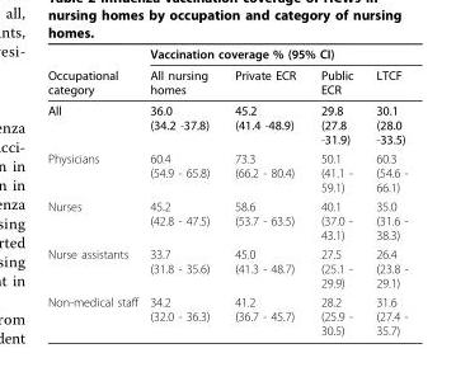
<table><thead><tr><td rowspan="2">Occupational category</td><td colspan="4">Vaccination coverage % (95% CI)</td></tr><tr><td>All nursing homes</td><td>Private ECR</td><td>Public ECR</td><td>LTCF</td></tr></thead><tbody><tr><td>All</td><td>36.0 (34.2 -37.8)</td><td>45.2 (41.4 -48.9)</td><td>29.8 (27.8 -31.9)</td><td>30.1 (28.0 -33.5)</td></tr><tr><td>Physicians</td><td>60.4 (54.9 - 65.8)</td><td>73.3 (66.2 - 80.4)</td><td>50.1 (41.1 - 59.1)</td><td>60.3 (54.6 - 66.1)</td></tr><tr><td>Nurses</td><td>45.2 (42.8 - 47.5)</td><td>58.6 (53.7 - 63.5)</td><td>40.1 (37.0 - 43.1)</td><td>35.0 (31.6 - 38.3)</td></tr><tr><td>Nurse assistants</td><td>33.7 (31.8 - 35.6)</td><td>45.0 (41.3 - 48.7)</td><td>27.5 (25.1 - 29.9)</td><td>26.4 (23.8 - 29.1)</td></tr><tr><td>Non-medical staff</td><td>34.2 (32.0 - 36.3)</td><td>41.2 (36.7 - 45.7)</td><td>28.2 (25.9 - 30.5)</td><td>31.6 (27.4 - 35.7)</td></tr></tbody></table>